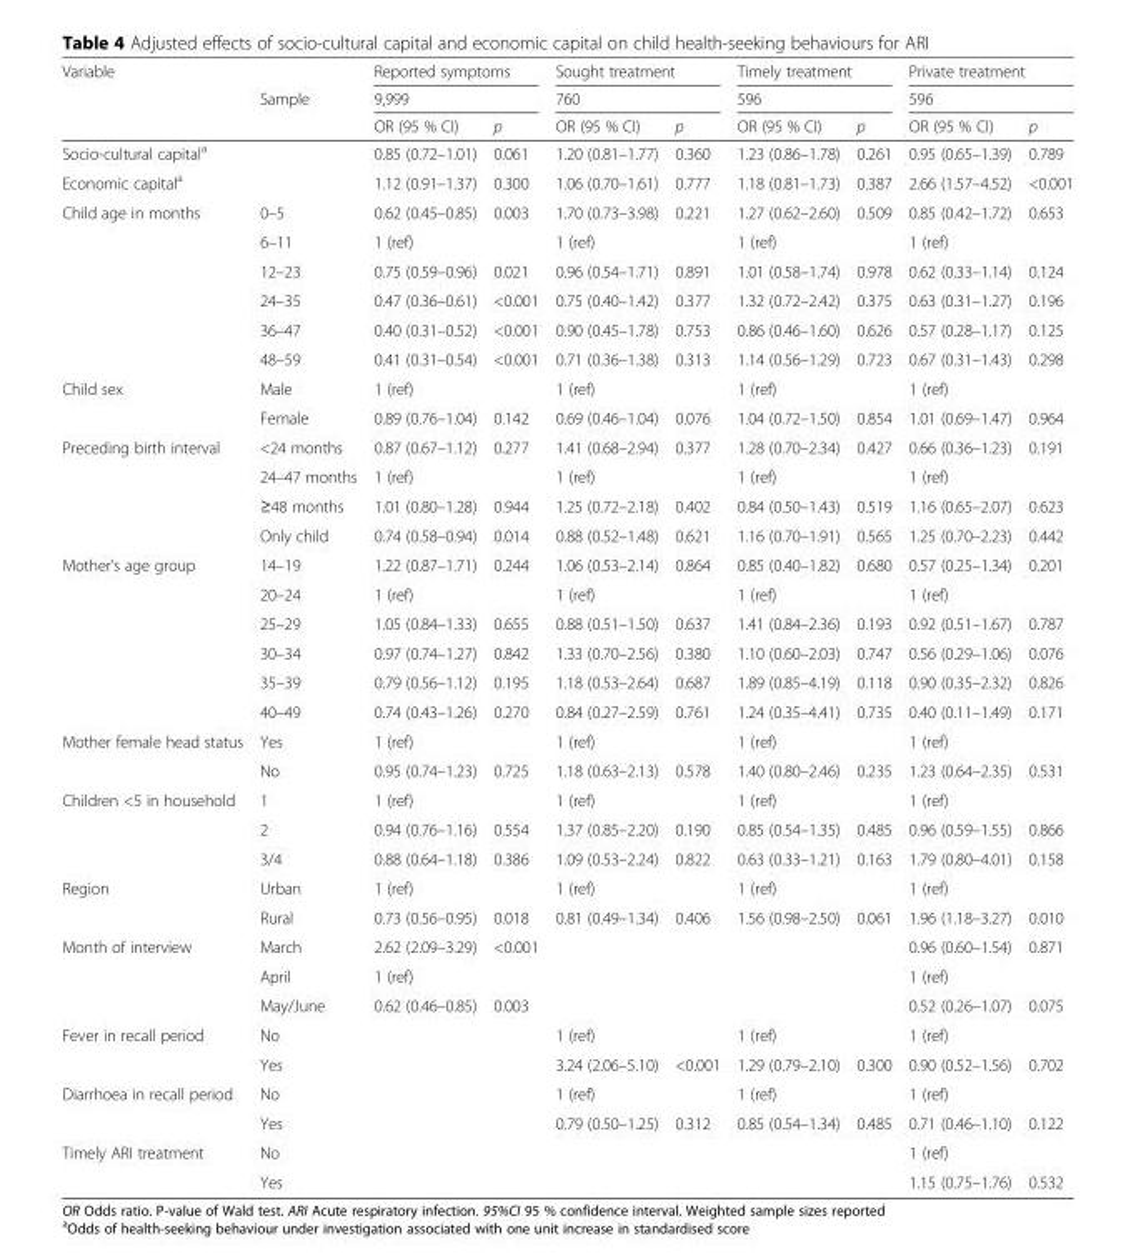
<table><thead><tr><td rowspan="3">Variable</td><td rowspan="3">Sample</td><td rowspan="2" colspan="2">Reported symptoms 9,999</td><td rowspan="2" colspan="2">Sought treatment 760</td><td rowspan="2" colspan="2">Timely treatment 596</td><td rowspan="2" colspan="2">Private treatment 596</td></tr><tr></tr><tr><td>OR (95 % CI)</td><td>p</td><td>OR (95 % CI)</td><td>p</td><td>OR (95 % CI)</td><td>p</td><td>OR (95 % CI)</td><td>p</td></tr></thead><tbody><tr><td colspan="2">Socio-cultural capital<sup>a</sup></td><td>0.85 (0.72–1.01)</td><td>0.061</td><td>1.20 (0.81–1.77)</td><td>0.360</td><td>1.23 (0.86–1.78)</td><td>0.261</td><td>0.95 (0.65–1.39)</td><td>0.789</td></tr><tr><td colspan="2">Economic capital<sup>a</sup></td><td>1.12 (0.91–1.37)</td><td>0.300</td><td>1.06 (0.70–1.61)</td><td>0.777</td><td>1.18 (0.81–1.73)</td><td>0.387</td><td>2.66 (1.57–4.52)</td><td>&lt;0.001</td></tr><tr><td rowspan="6">Child age in months</td><td>0–5</td><td>0.62 (0.45–0.85)</td><td>0.003</td><td>1.70 (0.73–3.98)</td><td>0.221</td><td>1.27 (0.62–2.60)</td><td>0.509</td><td>0.85 (0.42–1.72)</td><td>0.653</td></tr><tr><td>6–11</td><td>1 (ref)</td><td></td><td>1 (ref)</td><td></td><td>1 (ref)</td><td></td><td>1 (ref)</td><td></td></tr><tr><td>12–23</td><td>0.75 (0.59–0.96)</td><td>0.021</td><td>0.96 (0.54–1.71)</td><td>0.891</td><td>1.01 (0.58–1.74)</td><td>0.978</td><td>0.62 (0.33–1.14)</td><td>0.124</td></tr><tr><td>24–35</td><td>0.47 (0.36–0.61)</td><td>&lt;0.001</td><td>0.75 (0.40–1.42)</td><td>0.377</td><td>1.32 (0.72–2.42)</td><td>0.375</td><td>0.63 (0.31–1.27)</td><td>0.196</td></tr><tr><td>36–47</td><td>0.40 (0.31–0.52)</td><td>&lt;0.001</td><td>0.90 (0.45–1.78)</td><td>0.753</td><td>0.86 (0.46–1.60)</td><td>0.626</td><td>0.57 (0.28–1.17)</td><td>0.125</td></tr><tr><td>48–59</td><td>0.41 (0.31–0.54)</td><td>&lt;0.001</td><td>0.71 (0.36–1.38)</td><td>0.313</td><td>1.14 (0.56–1.29)</td><td>0.723</td><td>0.67 (0.31–1.43)</td><td>0.298</td></tr><tr><td rowspan="2">Child sex</td><td>Male</td><td>1 (ref)</td><td></td><td>1 (ref)</td><td></td><td>1 (ref)</td><td></td><td>1 (ref)</td><td></td></tr><tr><td>Female</td><td>0.89 (0.76–1.04)</td><td>0.142</td><td>0.69 (0.46–1.04)</td><td>0.076</td><td>1.04 (0.72–1.50)</td><td>0.854</td><td>1.01 (0.69–1.47)</td><td>0.964</td></tr><tr><td rowspan="4">Preceding birth interval</td><td>&lt;24 months</td><td>0.87 (0.67–1.12)</td><td>0.277</td><td>1.41 (0.68–2.94)</td><td>0.377</td><td>1.28 (0.70–2.34)</td><td>0.427</td><td>0.66 (0.36–1.23)</td><td>0.191</td></tr><tr><td>24–47 months</td><td>1 (ref)</td><td></td><td>1 (ref)</td><td></td><td>1 (ref)</td><td></td><td>1 (ref)</td><td></td></tr><tr><td>≥48 months</td><td>1.01 (0.80–1.28)</td><td>0.944</td><td>1.25 (0.72–2.18)</td><td>0.402</td><td>0.84 (0.50–1.43)</td><td>0.519</td><td>1.16 (0.65–2.07)</td><td>0.623</td></tr><tr><td>Only child</td><td>0.74 (0.58–0.94)</td><td>0.014</td><td>0.88 (0.52–1.48)</td><td>0.621</td><td>1.16 (0.70–1.91)</td><td>0.565</td><td>1.25 (0.70–2.23)</td><td>0.442</td></tr><tr><td rowspan="6">Mother’s age group</td><td>14–19</td><td>1.22 (0.87–1.71)</td><td>0.244</td><td>1.06 (0.53–2.14)</td><td>0.864</td><td>0.85 (0.40–1.82)</td><td>0.680</td><td>0.57 (0.25–1.34)</td><td>0.201</td></tr><tr><td>20–24</td><td>1 (ref)</td><td></td><td>1 (ref)</td><td></td><td>1 (ref)</td><td></td><td>1 (ref)</td><td></td></tr><tr><td>25–29</td><td>1.05 (0.84–1.33)</td><td>0.655</td><td>0.88 (0.51–1.50)</td><td>0.637</td><td>1.41 (0.84–2.36)</td><td>0.193</td><td>0.92 (0.51–1.67)</td><td>0.787</td></tr><tr><td>30–34</td><td>0.97 (0.74–1.27)</td><td>0.842</td><td>1.33 (0.70–2.56)</td><td>0.380</td><td>1.10 (0.60–2.03)</td><td>0.747</td><td>0.56 (0.29–1.06)</td><td>0.076</td></tr><tr><td>35–39</td><td>0.79 (0.56–1.12)</td><td>0.195</td><td>1.18 (0.53–2.64)</td><td>0.687</td><td>1.89 (0.85–4.19)</td><td>0.118</td><td>0.90 (0.35–2.32)</td><td>0.826</td></tr><tr><td>40–49</td><td>0.74 (0.43–1.26)</td><td>0.270</td><td>0.84 (0.27–2.59)</td><td>0.761</td><td>1.24 (0.35–4.41)</td><td>0.735</td><td>0.40 (0.11–1.49)</td><td>0.171</td></tr><tr><td rowspan="2">Mother female head status</td><td>Yes</td><td>1 (ref)</td><td></td><td>1 (ref)</td><td></td><td>1 (ref)</td><td></td><td>1 (ref)</td><td></td></tr><tr><td>No</td><td>0.95 (0.74–1.23)</td><td>0.725</td><td>1.18 (0.63–2.13)</td><td>0.578</td><td>1.40 (0.80–2.46)</td><td>0.235</td><td>1.23 (0.64–2.35)</td><td>0.531</td></tr><tr><td rowspan="3">Children &lt;5 in household</td><td>1</td><td>1 (ref)</td><td></td><td>1 (ref)</td><td></td><td>1 (ref)</td><td></td><td>1 (ref)</td><td></td></tr><tr><td>2</td><td>0.94 (0.76–1.16)</td><td>0.554</td><td>1.37 (0.85–2.20)</td><td>0.190</td><td>0.85 (0.54–1.35)</td><td>0.485</td><td>0.96 (0.59–1.55)</td><td>0.866</td></tr><tr><td>3/4</td><td>0.88 (0.64–1.18)</td><td>0.386</td><td>1.09 (0.53–2.24)</td><td>0.822</td><td>0.63 (0.33–1.21)</td><td>0.163</td><td>1.79 (0.80–4.01)</td><td>0.158</td></tr><tr><td rowspan="2">Region</td><td>Urban</td><td>1 (ref)</td><td></td><td>1 (ref)</td><td></td><td>1 (ref)</td><td></td><td>1 (ref)</td><td></td></tr><tr><td>Rural</td><td>0.73 (0.56–0.95)</td><td>0.018</td><td>0.81 (0.49–1.34)</td><td>0.406</td><td>1.56 (0.98–2.50)</td><td>0.061</td><td>1.96 (1.18–3.27)</td><td>0.010</td></tr><tr><td rowspan="3">Month of interview</td><td>March</td><td>2.62 (2.09–3.29)</td><td>&lt;0.001</td><td></td><td></td><td></td><td></td><td>0.96 (0.60–1.54)</td><td>0.871</td></tr><tr><td>April</td><td>1 (ref)</td><td></td><td></td><td></td><td></td><td></td><td>1 (ref)</td><td></td></tr><tr><td>May/June</td><td>0.62 (0.46–0.85)</td><td>0.003</td><td></td><td></td><td></td><td></td><td>0.52 (0.26–1.07)</td><td>0.075</td></tr><tr><td rowspan="2">Fever in recall period</td><td>No</td><td></td><td></td><td>1 (ref)</td><td></td><td>1 (ref)</td><td></td><td>1 (ref)</td><td></td></tr><tr><td>Yes</td><td></td><td></td><td>3.24 (2.06–5.10)</td><td>&lt;0.001</td><td>1.29 (0.79–2.10)</td><td>0.300</td><td>0.90 (0.52–1.56)</td><td>0.702</td></tr><tr><td rowspan="2">Diarrhoea in recall period</td><td>No</td><td></td><td></td><td>1 (ref)</td><td></td><td>1 (ref)</td><td></td><td>1 (ref)</td><td></td></tr><tr><td>Yes</td><td></td><td></td><td>0.79 (0.50–1.25)</td><td>0.312</td><td>0.85 (0.54–1.34)</td><td>0.485</td><td>0.71 (0.46–1.10)</td><td>0.122</td></tr><tr><td rowspan="2">Timely ARI treatment</td><td>No</td><td></td><td></td><td></td><td></td><td></td><td></td><td>1 (ref)</td><td></td></tr><tr><td>Yes</td><td></td><td></td><td></td><td></td><td></td><td></td><td>1.15 (0.75–1.76)</td><td>0.532</td></tr></tbody></table>